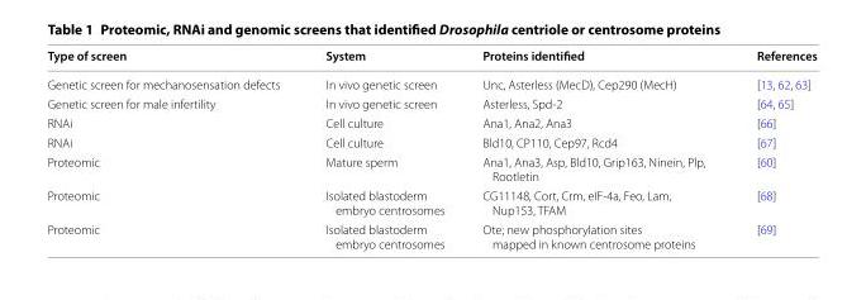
<table><thead><tr><td>Type of screen</td><td>System</td><td>Proteins identified</td><td>References</td></tr></thead><tbody><tr><td>Genetic screen for mechanosensation defects</td><td>In vivo genetic screen</td><td>Unc, Asterless (MecD), Cep290 (MecH)</td><td>[13, 62, 63]</td></tr><tr><td>Genetic screen for male infertility</td><td>In vivo genetic screen</td><td>Asterless, Spd‑2</td><td>[64, 65]</td></tr><tr><td>RNAi</td><td>Cell culture</td><td>Ana1, Ana2, Ana3</td><td>[66]</td></tr><tr><td>RNAi</td><td>Cell culture</td><td>Bld10, CP110, Cep97, Rcd4</td><td>[67]</td></tr><tr><td>Proteomic</td><td>Mature sperm</td><td>Ana1, Ana3, Asp, Bld10, Grip163, Ninein, Plp, Rootletin</td><td>[60]</td></tr><tr><td>Proteomic</td><td>Isolated blastoderm embryo centrosomes</td><td>CG11148, Cort, Crm, eIF‑4a, Feo, Lam, Nup153, TFAM</td><td>[68]</td></tr><tr><td>Proteomic</td><td>Isolated blastoderm embryo centrosomes</td><td>Ote; new phosphorylation sites mapped in known centrosome proteins</td><td>[69]</td></tr></tbody></table>